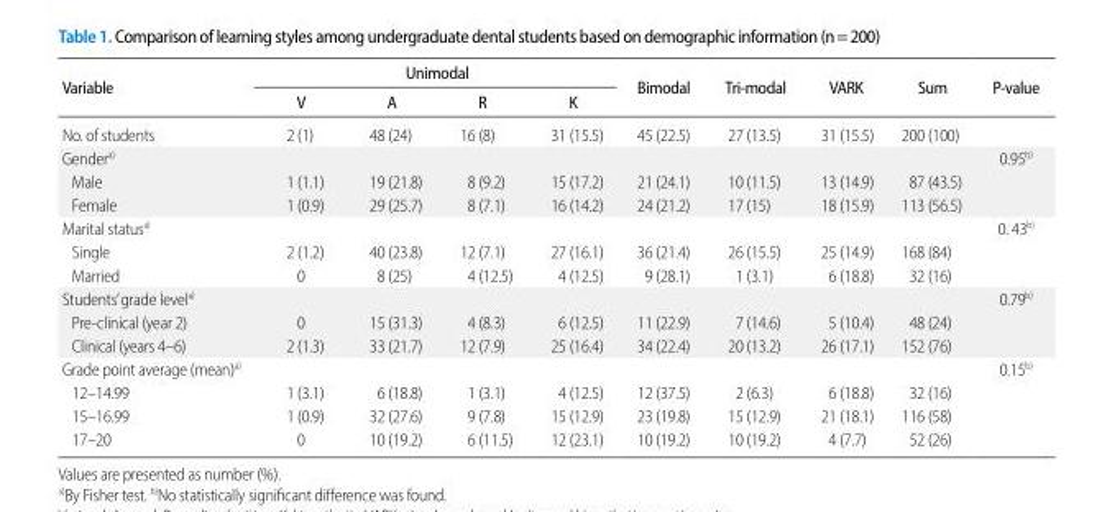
<table><thead><tr><td rowspan="2">Variable</td><td colspan="4">Unimodal</td><td rowspan="2">Bimodal</td><td rowspan="2">Tri-modal</td><td rowspan="2">VARK</td><td rowspan="2">Sum</td><td rowspan="2">P-value</td></tr><tr><td>V</td><td>A</td><td>R</td><td>K</td></tr></thead><tbody><tr><td>No. of students</td><td>2 (1)</td><td>48 (24)</td><td>16 (8)</td><td>31 (15.5)</td><td>45 (22.5)</td><td>27 (13.5)</td><td>31 (15.5)</td><td>200 (100)</td><td></td></tr><tr><td>Gender<sup>a)</sup></td><td></td><td></td><td></td><td></td><td></td><td></td><td></td><td></td><td>0.95<sup>b)</sup></td></tr><tr><td>Male</td><td>1 (1.1)</td><td>19 (21.8)</td><td>8 (9.2)</td><td>15 (17.2)</td><td>21 (24.1)</td><td>10 (11.5)</td><td>13 (14.9)</td><td>87 (43.5)</td><td></td></tr><tr><td>Female</td><td>1 (0.9)</td><td>29 (25.7)</td><td>8 (7.1)</td><td>16 (14.2)</td><td>24 (21.2)</td><td>17 (15)</td><td>18 (15.9)</td><td>113 (56.5)</td><td></td></tr><tr><td>Marital status<sup>a)</sup></td><td></td><td></td><td></td><td></td><td></td><td></td><td></td><td></td><td>0. 43<sup>b)</sup></td></tr><tr><td>Single</td><td>2 (1.2)</td><td>40 (23.8)</td><td>12 (7.1)</td><td>27 (16.1)</td><td>36 (21.4)</td><td>26 (15.5)</td><td>25 (14.9)</td><td>168 (84)</td><td></td></tr><tr><td>Married</td><td>0</td><td>8 (25)</td><td>4 (12.5)</td><td>4 (12.5)</td><td>9 (28.1)</td><td>1 (3.1)</td><td>6 (18.8)</td><td>32 (16)</td><td></td></tr><tr><td>Students’ grade level<sup>a)</sup></td><td></td><td></td><td></td><td></td><td></td><td></td><td></td><td></td><td>0.79<sup>b)</sup></td></tr><tr><td>Pre-clinical (year 2)</td><td>0</td><td>15 (31.3)</td><td>4 (8.3)</td><td>6 (12.5)</td><td>11 (22.9)</td><td>7 (14.6)</td><td>5 (10.4)</td><td>48 (24)</td><td></td></tr><tr><td>Clinical (years 4–6)</td><td>2 (1.3)</td><td>33 (21.7)</td><td>12 (7.9)</td><td>25 (16.4)</td><td>34 (22.4)</td><td>20 (13.2)</td><td>26 (17.1)</td><td>152 (76)</td><td></td></tr><tr><td>Grade point average (mean)<sup>a)</sup></td><td></td><td></td><td></td><td></td><td></td><td></td><td></td><td></td><td>0.15<sup>b)</sup></td></tr><tr><td>12–14.99</td><td>1 (3.1)</td><td>6 (18.8)</td><td>1 (3.1)</td><td>4 (12.5)</td><td>12 (37.5)</td><td>2 (6.3)</td><td>6 (18.8)</td><td>32 (16)</td><td></td></tr><tr><td>15–16.99</td><td>1 (0.9)</td><td>32 (27.6)</td><td>9 (7.8)</td><td>15 (12.9)</td><td>23 (19.8)</td><td>15 (12.9)</td><td>21 (18.1)</td><td>116 (58)</td><td></td></tr><tr><td>17–20</td><td>0</td><td>10 (19.2)</td><td>6 (11.5)</td><td>12 (23.1)</td><td>10 (19.2)</td><td>10 (19.2)</td><td>4 (7.7)</td><td>52 (26)</td><td></td></tr></tbody></table>